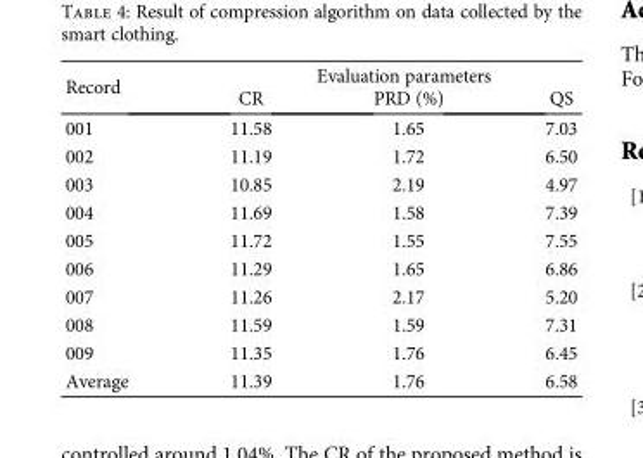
<table><thead><tr><td rowspan="2">Record</td><td colspan="3">Evaluation parameters</td></tr><tr><td>CR</td><td>PRD (%)</td><td>QS</td></tr></thead><tbody><tr><td>001</td><td>11.58</td><td>1.65</td><td>7.03</td></tr><tr><td>002</td><td>11.19</td><td>1.72</td><td>6.50</td></tr><tr><td>003</td><td>10.85</td><td>2.19</td><td>4.97</td></tr><tr><td>004</td><td>11.69</td><td>1.58</td><td>7.39</td></tr><tr><td>005</td><td>11.72</td><td>1.55</td><td>7.55</td></tr><tr><td>006</td><td>11.29</td><td>1.65</td><td>6.86</td></tr><tr><td>007</td><td>11.26</td><td>2.17</td><td>5.20</td></tr><tr><td>008</td><td>11.59</td><td>1.59</td><td>7.31</td></tr><tr><td>009</td><td>11.35</td><td>1.76</td><td>6.45</td></tr><tr><td>Average</td><td>11.39</td><td>1.76</td><td>6.58</td></tr></tbody></table>